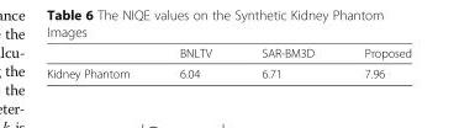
<table><thead><tr><td></td><td>BNLTV</td><td>SAR-BM3D</td><td>Proposed</td></tr></thead><tbody><tr><td>Kidney Phantom</td><td>6.04</td><td>6.71</td><td>7.96</td></tr></tbody></table>